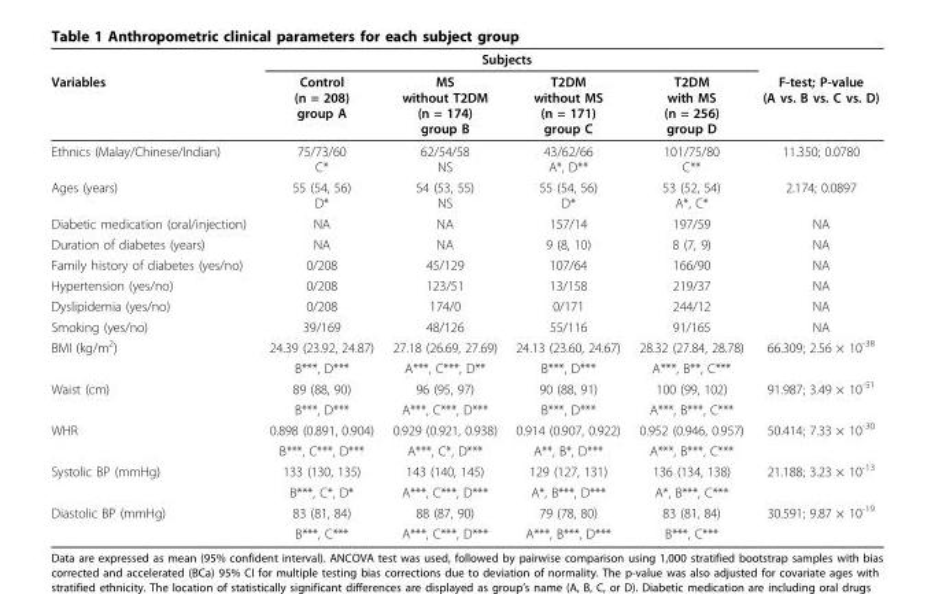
<table><thead><tr><td rowspan="2">Variables</td><td colspan="4">Subjects</td><td rowspan="2">F-test; P-value (A vs. B vs. C vs. D)</td></tr><tr><td>Control (n = 208) group A</td><td>MS without T2DM (n = 174) group B</td><td>T2DM without MS (n = 171) group C</td><td>T2DM with MS (n = 256) group D</td></tr></thead><tbody><tr><td>Ethnics (Malay/Chinese/Indian)</td><td>75/73/60 C*</td><td>62/54/58 NS</td><td>43/62/66 A*, D**</td><td>101/75/80 C**</td><td>11.350; 0.0780</td></tr><tr><td>Ages (years)</td><td>55 (54, 56) D*</td><td>54 (53, 55) NS</td><td>55 (54, 56) D*</td><td>53 (52, 54) A*, C*</td><td>2.174; 0.0897</td></tr><tr><td>Diabetic medication (oral/injection)</td><td>NA</td><td>NA</td><td>157/14</td><td>197/59</td><td>NA</td></tr><tr><td>Duration of diabetes (years)</td><td>NA</td><td>NA</td><td>9 (8, 10)</td><td>8 (7, 9)</td><td>NA</td></tr><tr><td>Family history of diabetes (yes/no)</td><td>0/208</td><td>45/129</td><td>107/64</td><td>166/90</td><td>NA</td></tr><tr><td>Hypertension (yes/no)</td><td>0/208</td><td>123/51</td><td>13/158</td><td>219/37</td><td>NA</td></tr><tr><td>Dyslipidemia (yes/no)</td><td>0/208</td><td>174/0</td><td>0/171</td><td>244/12</td><td>NA</td></tr><tr><td>Smoking (yes/no)</td><td>39/169</td><td>48/126</td><td>55/116</td><td>91/165</td><td>NA</td></tr><tr><td rowspan="2">BMI (kg/m<sup>2</sup>)</td><td>24.39 (23.92, 24.87)</td><td>27.18 (26.69, 27.69)</td><td>24.13 (23.60, 24.67)</td><td>28.32 (27.84, 28.78)</td><td>66.309; 2.56 × 10<sup>-38</sup></td></tr><tr><td>B***, D***</td><td>A***, C***, D**</td><td>B***, D***</td><td>A***, B**, C***</td><td></td></tr><tr><td rowspan="2">Waist (cm)</td><td>89 (88, 90)</td><td>96 (95, 97)</td><td>90 (88, 91)</td><td>100 (99, 102)</td><td>91.987; 3.49 × 10<sup>-51</sup></td></tr><tr><td>B***, D***</td><td>A***, C***, D***</td><td>B***, D***</td><td>A***, B***, C***</td><td></td></tr><tr><td rowspan="2">WHR</td><td>0.898 (0.891, 0.904)</td><td>0.929 (0.921, 0.938)</td><td>0.914 (0.907, 0.922)</td><td>0.952 (0.946, 0.957)</td><td>50.414; 7.33 × 10<sup>-30</sup></td></tr><tr><td>B***, C***, D***</td><td>A***, C*, D***</td><td>A**, B*, D***</td><td>A***, B***, C***</td><td></td></tr><tr><td rowspan="2">Systolic BP (mmHg)</td><td>133 (130, 135)</td><td>143 (140, 145)</td><td>129 (127, 131)</td><td>136 (134, 138)</td><td>21.188; 3.23 × 10<sup>-13</sup></td></tr><tr><td>B***, C*, D*</td><td>A***, C***, D***</td><td>A*, B***, D***</td><td>A*, B***, C***</td><td></td></tr><tr><td rowspan="2">Diastolic BP (mmHg)</td><td>83 (81, 84)</td><td>88 (87, 90)</td><td>79 (78, 80)</td><td>83 (81, 84)</td><td>30.591; 9.87 × 10<sup>-19</sup></td></tr><tr><td>B***, C***</td><td>A***, C***, D***</td><td>A***, B***, D***</td><td>B***, C***</td><td></td></tr></tbody></table>